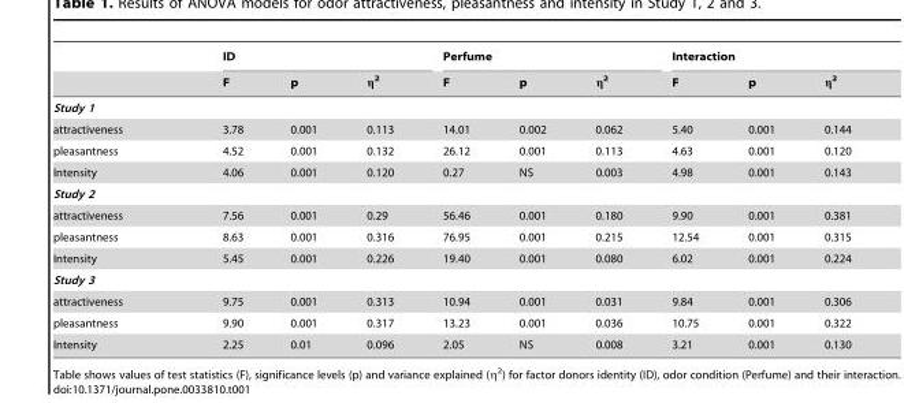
<table><thead><tr><td rowspan="2"></td><td colspan="3">ID</td><td colspan="3">Perfume</td><td colspan="3">Interaction</td></tr><tr><td>F</td><td>p</td><td>η<sup>2</sup></td><td>F</td><td>p</td><td>η<sup>2</sup></td><td>F</td><td>p</td><td>η<sup>2</sup></td></tr></thead><tbody><tr><td colspan="10">Study 1</td></tr><tr><td>attractiveness</td><td>3.78</td><td>0.001</td><td>0.113</td><td>14.01</td><td>0.002</td><td>0.062</td><td>5.40</td><td>0.001</td><td>0.144</td></tr><tr><td>pleasantness</td><td>4.52</td><td>0.001</td><td>0.132</td><td>26.12</td><td>0.001</td><td>0.113</td><td>4.63</td><td>0.001</td><td>0.120</td></tr><tr><td>Intensity</td><td>4.06</td><td>0.001</td><td>0.120</td><td>0.27</td><td>NS</td><td>0.003</td><td>4.98</td><td>0.001</td><td>0.143</td></tr><tr><td colspan="10">Study 2</td></tr><tr><td>attractiveness</td><td>7.56</td><td>0.001</td><td>0.29</td><td>56.46</td><td>0.001</td><td>0.180</td><td>9.90</td><td>0.001</td><td>0.381</td></tr><tr><td>pleasantness</td><td>8.63</td><td>0.001</td><td>0.316</td><td>76.95</td><td>0.001</td><td>0.215</td><td>12.54</td><td>0.001</td><td>0.315</td></tr><tr><td>Intensity</td><td>5.45</td><td>0.001</td><td>0.226</td><td>19.40</td><td>0.001</td><td>0.080</td><td>6.02</td><td>0.001</td><td>0.224</td></tr><tr><td colspan="10">Study 3</td></tr><tr><td>attractiveness</td><td>9.75</td><td>0.001</td><td>0.313</td><td>10.94</td><td>0.001</td><td>0.031</td><td>9.84</td><td>0.001</td><td>0.306</td></tr><tr><td>pleasantness</td><td>9.90</td><td>0.001</td><td>0.317</td><td>13.23</td><td>0.001</td><td>0.036</td><td>10.75</td><td>0.001</td><td>0.322</td></tr><tr><td>Intensity</td><td>2.25</td><td>0.01</td><td>0.096</td><td>2.05</td><td>NS</td><td>0.008</td><td>3.21</td><td>0.001</td><td>0.130</td></tr></tbody></table>